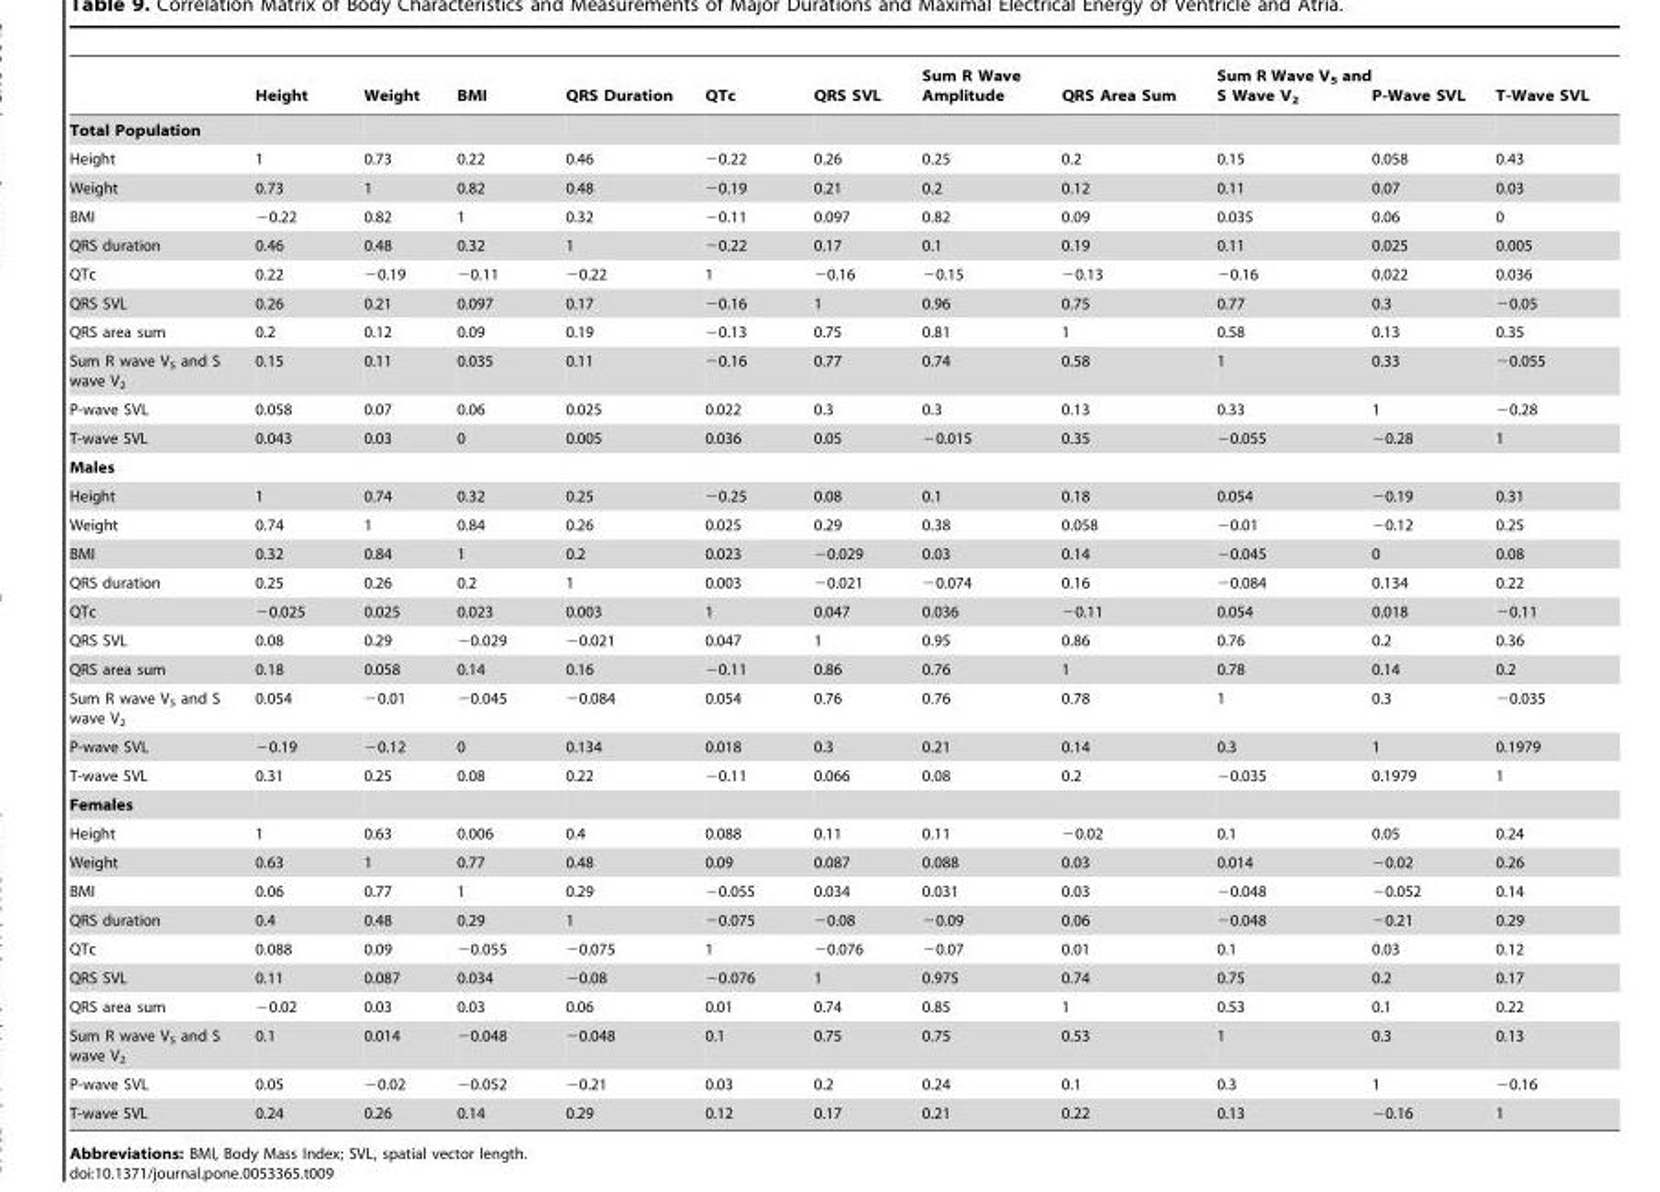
<table><thead><tr><td></td><td>Height</td><td>Weight</td><td>BMI</td><td>QRS Duration</td><td>QTc</td><td>QRS SVL</td><td>Sum R Wave Amplitude</td><td>QRS Area Sum</td><td>Sum R Wave V<sub>5</sub> and S Wave V<sub>2</sub></td><td>P-Wave SVL</td><td>T-Wave SVL</td></tr></thead><tbody><tr><td colspan="12">Total Population</td></tr><tr><td>Height</td><td>1</td><td>0.73</td><td>0.22</td><td>0.46</td><td>−0.22</td><td>0.26</td><td>0.25</td><td>0.2</td><td>0.15</td><td>0.058</td><td>0.43</td></tr><tr><td>Weight</td><td>0.73</td><td>1</td><td>0.82</td><td>0.48</td><td>−0.19</td><td>0.21</td><td>0.2</td><td>0.12</td><td>0.11</td><td>0.07</td><td>0.03</td></tr><tr><td>BMI</td><td>−0.22</td><td>0.82</td><td>1</td><td>0.32</td><td>−0.11</td><td>0.097</td><td>0.82</td><td>0.09</td><td>0.035</td><td>0.06</td><td>0</td></tr><tr><td>QRS duration</td><td>0.46</td><td>0.48</td><td>0.32</td><td>1</td><td>−0.22</td><td>0.17</td><td>0.1</td><td>0.19</td><td>0.11</td><td>0.025</td><td>0.005</td></tr><tr><td>QTc</td><td>0.22</td><td>−0.19</td><td>−0.11</td><td>−0.22</td><td>1</td><td>−0.16</td><td>−0.15</td><td>−0.13</td><td>−0.16</td><td>0.022</td><td>0.036</td></tr><tr><td>QRS SVL</td><td>0.26</td><td>0.21</td><td>0.097</td><td>0.17</td><td>−0.16</td><td>1</td><td>0.96</td><td>0.75</td><td>0.77</td><td>0.3</td><td>−0.05</td></tr><tr><td>QRS area sum</td><td>0.2</td><td>0.12</td><td>0.09</td><td>0.19</td><td>−0.13</td><td>0.75</td><td>0.81</td><td>1</td><td>0.58</td><td>0.13</td><td>0.35</td></tr><tr><td>Sum R wave V<sub>5</sub> and S wave V<sub>2</sub></td><td>0.15</td><td>0.11</td><td>0.035</td><td>0.11</td><td>−0.16</td><td>0.77</td><td>0.74</td><td>0.58</td><td>1</td><td>0.33</td><td>−0.055</td></tr><tr><td>P-wave SVL</td><td>0.058</td><td>0.07</td><td>0.06</td><td>0.025</td><td>0.022</td><td>0.3</td><td>0.3</td><td>0.13</td><td>0.33</td><td>1</td><td>−0.28</td></tr><tr><td>T-wave SVL</td><td>0.043</td><td>0.03</td><td>0</td><td>0.005</td><td>0.036</td><td>0.05</td><td>−0.015</td><td>0.35</td><td>−0.055</td><td>−0.28</td><td>1</td></tr><tr><td colspan="12">Males</td></tr><tr><td>Height</td><td>1</td><td>0.74</td><td>0.32</td><td>0.25</td><td>−0.25</td><td>0.08</td><td>0.1</td><td>0.18</td><td>0.054</td><td>−0.19</td><td>0.31</td></tr><tr><td>Weight</td><td>0.74</td><td>1</td><td>0.84</td><td>0.26</td><td>0.025</td><td>0.29</td><td>0.38</td><td>0.058</td><td>−0.01</td><td>−0.12</td><td>0.25</td></tr><tr><td>BMI</td><td>0.32</td><td>0.84</td><td>1</td><td>0.2</td><td>0.023</td><td>−0.029</td><td>0.03</td><td>0.14</td><td>−0.045</td><td>0</td><td>0.08</td></tr><tr><td>QRS duration</td><td>0.25</td><td>0.26</td><td>0.2</td><td>1</td><td>0.003</td><td>−0.021</td><td>−0.074</td><td>0.16</td><td>−0.084</td><td>0.134</td><td>0.22</td></tr><tr><td>QTc</td><td>−0.025</td><td>0.025</td><td>0.023</td><td>0.003</td><td>1</td><td>0.047</td><td>0.036</td><td>−0.11</td><td>0.054</td><td>0.018</td><td>−0.11</td></tr><tr><td>QRS SVL</td><td>0.08</td><td>0.29</td><td>−0.029</td><td>−0.021</td><td>0.047</td><td>1</td><td>0.95</td><td>0.86</td><td>0.76</td><td>0.2</td><td>0.36</td></tr><tr><td>QRS area sum</td><td>0.18</td><td>0.058</td><td>0.14</td><td>0.16</td><td>−0.11</td><td>0.86</td><td>0.76</td><td>1</td><td>0.78</td><td>0.14</td><td>0.2</td></tr><tr><td>Sum R wave V<sub>5</sub> and S wave V<sub>2</sub></td><td>0.054</td><td>−0.01</td><td>−0.045</td><td>−0.084</td><td>0.054</td><td>0.76</td><td>0.76</td><td>0.78</td><td>1</td><td>0.3</td><td>−0.035</td></tr><tr><td>P-wave SVL</td><td>−0.19</td><td>−0.12</td><td>0</td><td>0.134</td><td>0.018</td><td>0.3</td><td>0.21</td><td>0.14</td><td>0.3</td><td>1</td><td>0.1979</td></tr><tr><td>T-wave SVL</td><td>0.31</td><td>0.25</td><td>0.08</td><td>0.22</td><td>−0.11</td><td>0.066</td><td>0.08</td><td>0.2</td><td>−0.035</td><td>0.1979</td><td>1</td></tr><tr><td colspan="12">Females</td></tr><tr><td>Height</td><td>1</td><td>0.63</td><td>0.006</td><td>0.4</td><td>0.088</td><td>0.11</td><td>0.11</td><td>−0.02</td><td>0.1</td><td>0.05</td><td>0.24</td></tr><tr><td>Weight</td><td>0.63</td><td>1</td><td>0.77</td><td>0.48</td><td>0.09</td><td>0.087</td><td>0.088</td><td>0.03</td><td>0.014</td><td>−0.02</td><td>0.26</td></tr><tr><td>BMI</td><td>0.06</td><td>0.77</td><td>1</td><td>0.29</td><td>−0.055</td><td>0.034</td><td>0.031</td><td>0.03</td><td>−0.048</td><td>−0.052</td><td>0.14</td></tr><tr><td>QRS duration</td><td>0.4</td><td>0.48</td><td>0.29</td><td>1</td><td>−0.075</td><td>−0.08</td><td>−0.09</td><td>0.06</td><td>−0.048</td><td>−0.21</td><td>0.29</td></tr><tr><td>QTc</td><td>0.088</td><td>0.09</td><td>−0.055</td><td>−0.075</td><td>1</td><td>−0.076</td><td>−0.07</td><td>0.01</td><td>0.1</td><td>0.03</td><td>0.12</td></tr><tr><td>QRS SVL</td><td>0.11</td><td>0.087</td><td>0.034</td><td>−0.08</td><td>−0.076</td><td>1</td><td>0.975</td><td>0.74</td><td>0.75</td><td>0.2</td><td>0.17</td></tr><tr><td>QRS area sum</td><td>−0.02</td><td>0.03</td><td>0.03</td><td>0.06</td><td>0.01</td><td>0.74</td><td>0.85</td><td>1</td><td>0.53</td><td>0.1</td><td>0.22</td></tr><tr><td>Sum R wave V<sub>5</sub> and S wave V<sub>2</sub></td><td>0.1</td><td>0.014</td><td>−0.048</td><td>−0.048</td><td>0.1</td><td>0.75</td><td>0.75</td><td>0.53</td><td>1</td><td>0.3</td><td>0.13</td></tr><tr><td>P-wave SVL</td><td>0.05</td><td>−0.02</td><td>−0.052</td><td>−0.21</td><td>0.03</td><td>0.2</td><td>0.24</td><td>0.1</td><td>0.3</td><td>1</td><td>−0.16</td></tr><tr><td>T-wave SVL</td><td>0.24</td><td>0.26</td><td>0.14</td><td>0.29</td><td>0.12</td><td>0.17</td><td>0.21</td><td>0.22</td><td>0.13</td><td>−0.16</td><td>1</td></tr></tbody></table>